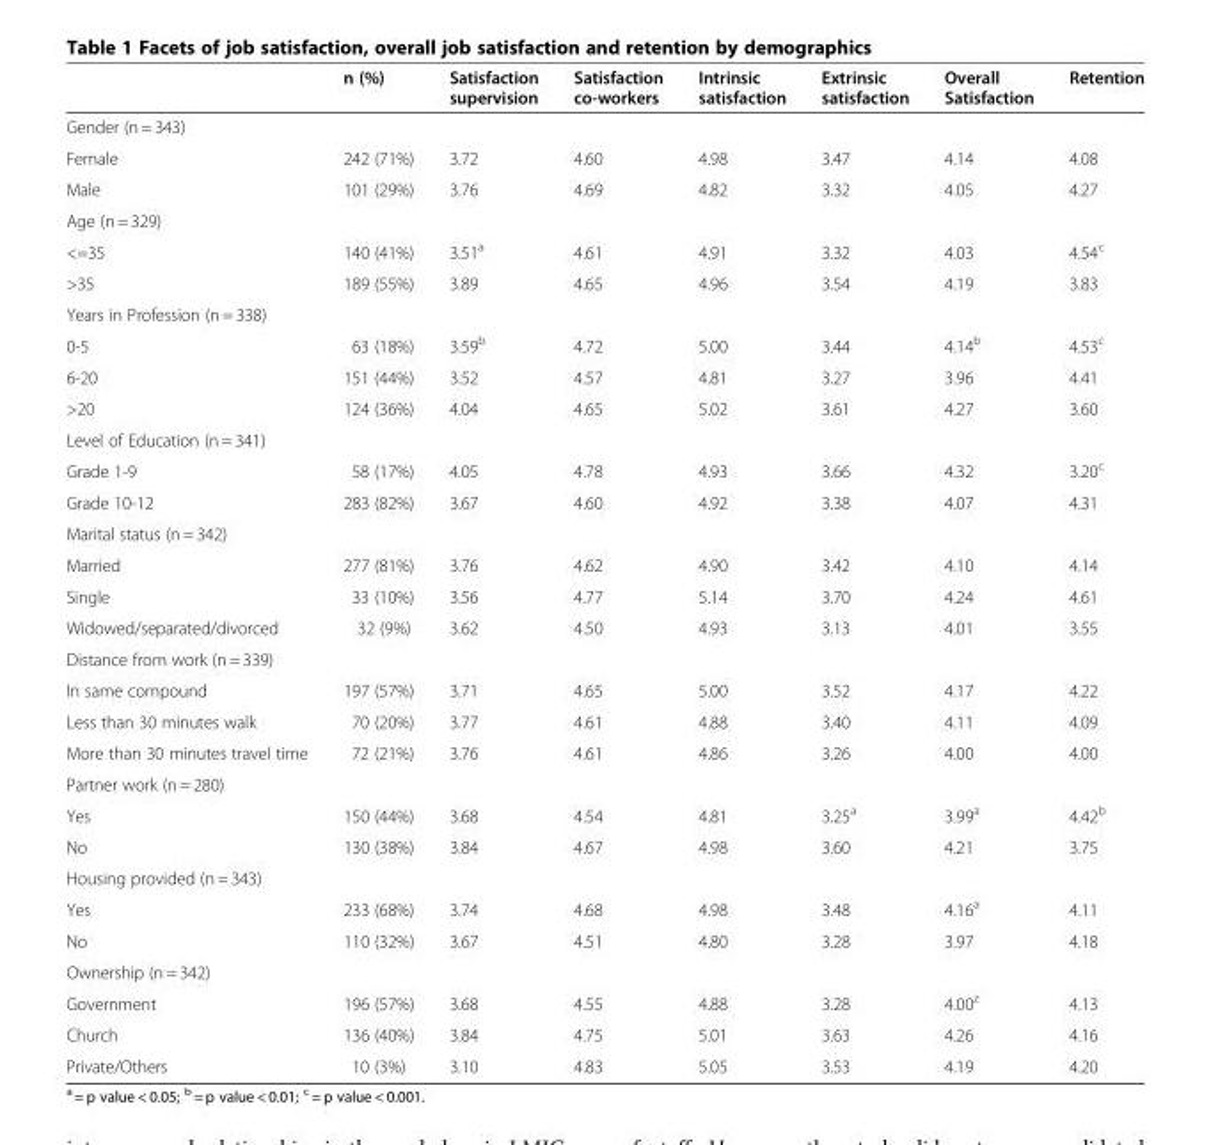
<table><thead><tr><td></td><td>n (%)</td><td>Satisfaction supervision</td><td>Satisfaction co-workers</td><td>Intrinsic satisfaction</td><td>Extrinsic satisfaction</td><td>Overall Satisfaction</td><td>Retention</td></tr></thead><tbody><tr><td colspan="8">Gender (n = 343)</td></tr><tr><td>Female</td><td>242 (71%)</td><td>3.72</td><td>4.60</td><td>4.98</td><td>3.47</td><td>4.14</td><td>4.08</td></tr><tr><td>Male</td><td>101 (29%)</td><td>3.76</td><td>4.69</td><td>4.82</td><td>3.32</td><td>4.05</td><td>4.27</td></tr><tr><td colspan="8">Age (n = 329)</td></tr><tr><td>&lt;=35</td><td>140 (41%)</td><td>3.51<sup>a</sup></td><td>4.61</td><td>4.91</td><td>3.32</td><td>4.03</td><td>4.54<sup>c</sup></td></tr><tr><td>&gt;35</td><td>189 (55%)</td><td>3.89</td><td>4.65</td><td>4.96</td><td>3.54</td><td>4.19</td><td>3.83</td></tr><tr><td colspan="8">Years in Profession (n = 338)</td></tr><tr><td>0-5</td><td>63 (18%)</td><td>3.59<sup>b</sup></td><td>4.72</td><td>5.00</td><td>3.44</td><td>4.14<sup>b</sup></td><td>4.53<sup>c</sup></td></tr><tr><td>6-20</td><td>151 (44%)</td><td>3.52</td><td>4.57</td><td>4.81</td><td>3.27</td><td>3.96</td><td>4.41</td></tr><tr><td>&gt;20</td><td>124 (36%)</td><td>4.04</td><td>4.65</td><td>5.02</td><td>3.61</td><td>4.27</td><td>3.60</td></tr><tr><td colspan="8">Level of Education (n = 341)</td></tr><tr><td>Grade 1-9</td><td>58 (17%)</td><td>4.05</td><td>4.78</td><td>4.93</td><td>3.66</td><td>4.32</td><td>3.20<sup>c</sup></td></tr><tr><td>Grade 10-12</td><td>283 (82%)</td><td>3.67</td><td>4.60</td><td>4.92</td><td>3.38</td><td>4.07</td><td>4.31</td></tr><tr><td colspan="8">Marital status (n = 342)</td></tr><tr><td>Married</td><td>277 (81%)</td><td>3.76</td><td>4.62</td><td>4.90</td><td>3.42</td><td>4.10</td><td>4.14</td></tr><tr><td>Single</td><td>33 (10%)</td><td>3.56</td><td>4.77</td><td>5.14</td><td>3.70</td><td>4.24</td><td>4.61</td></tr><tr><td>Widowed/separated/divorced</td><td>32 (9%)</td><td>3.62</td><td>4.50</td><td>4.93</td><td>3.13</td><td>4.01</td><td>3.55</td></tr><tr><td colspan="8">Distance from work (n = 339)</td></tr><tr><td>In same compound</td><td>197 (57%)</td><td>3.71</td><td>4.65</td><td>5.00</td><td>3.52</td><td>4.17</td><td>4.22</td></tr><tr><td>Less than 30 minutes walk</td><td>70 (20%)</td><td>3.77</td><td>4.61</td><td>4.88</td><td>3.40</td><td>4.11</td><td>4.09</td></tr><tr><td>More than 30 minutes travel time</td><td>72 (21%)</td><td>3.76</td><td>4.61</td><td>4.86</td><td>3.26</td><td>4.00</td><td>4.00</td></tr><tr><td colspan="8">Partner work (n = 280)</td></tr><tr><td>Yes</td><td>150 (44%)</td><td>3.68</td><td>4.54</td><td>4.81</td><td>3.25<sup>a</sup></td><td>3.99<sup>a</sup></td><td>4.42<sup>b</sup></td></tr><tr><td>No</td><td>130 (38%)</td><td>3.84</td><td>4.67</td><td>4.98</td><td>3.60</td><td>4.21</td><td>3.75</td></tr><tr><td colspan="8">Housing provided (n = 343)</td></tr><tr><td>Yes</td><td>233 (68%)</td><td>3.74</td><td>4.68</td><td>4.98</td><td>3.48</td><td>4.16<sup>a</sup></td><td>4.11</td></tr><tr><td>No</td><td>110 (32%)</td><td>3.67</td><td>4.51</td><td>4.80</td><td>3.28</td><td>3.97</td><td>4.18</td></tr><tr><td colspan="8">Ownership (n = 342)</td></tr><tr><td>Government</td><td>196 (57%)</td><td>3.68</td><td>4.55</td><td>4.88</td><td>3.28</td><td>4.00<sup>z</sup></td><td>4.13</td></tr><tr><td>Church</td><td>136 (40%)</td><td>3.84</td><td>4.75</td><td>5.01</td><td>3.63</td><td>4.26</td><td>4.16</td></tr><tr><td>Private/Others</td><td>10 (3%)</td><td>3.10</td><td>4.83</td><td>5.05</td><td>3.53</td><td>4.19</td><td>4.20</td></tr></tbody></table>